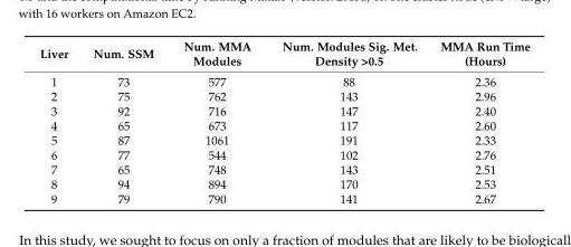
<table><thead><tr><td>Liver</td><td>Num. SSM</td><td>Num. MMA Modules</td><td>Num. Modules Sig. Met. Density &gt;0.5</td><td>MMA Run Time (Hours)</td></tr></thead><tbody><tr><td>1</td><td>73</td><td>577</td><td>88</td><td>2.36</td></tr><tr><td>2</td><td>75</td><td>762</td><td>143</td><td>2.96</td></tr><tr><td>3</td><td>92</td><td>716</td><td>147</td><td>2.40</td></tr><tr><td>4</td><td>65</td><td>673</td><td>117</td><td>2.60</td></tr><tr><td>5</td><td>87</td><td>1061</td><td>191</td><td>2.33</td></tr><tr><td>6</td><td>77</td><td>544</td><td>102</td><td>2.76</td></tr><tr><td>7</td><td>65</td><td>748</td><td>143</td><td>2.51</td></tr><tr><td>8</td><td>94</td><td>894</td><td>170</td><td>2.53</td></tr><tr><td>9</td><td>79</td><td>790</td><td>141</td><td>2.67</td></tr></tbody></table>